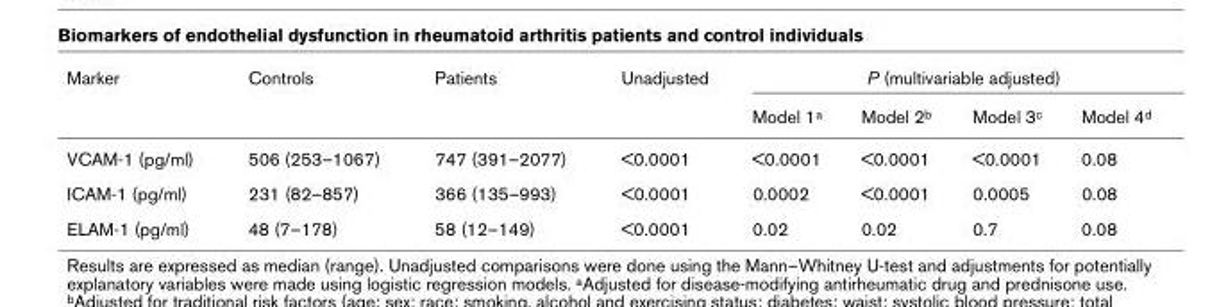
<table><thead><tr><td rowspan="2">Marker</td><td rowspan="2">Controls</td><td rowspan="2">Patients</td><td rowspan="2">Unadjusted</td><td colspan="4">P (multivariable adjusted)</td></tr><tr><td>Model 1a</td><td>Model 2b</td><td>Model 3c</td><td>Model 4d</td></tr></thead><tbody><tr><td>VCAM-1 (pg/ml)</td><td>506 (253–1067)</td><td>747 (391–2077)</td><td>&lt;0.0001</td><td>&lt;0.0001</td><td>&lt;0.0001</td><td>&lt;0.0001</td><td>0.08</td></tr><tr><td>ICAM-1 (pg/ml)</td><td>231 (82–857)</td><td>366 (135–993)</td><td>&lt;0.0001</td><td>0.0002</td><td>&lt;0.0001</td><td>0.0005</td><td>0.08</td></tr><tr><td>ELAM-1 (pg/ml)</td><td>48 (7–178)</td><td>58 (12–149)</td><td>&lt;0.0001</td><td>0.02</td><td>0.02</td><td>0.7</td><td>0.08</td></tr></tbody></table>